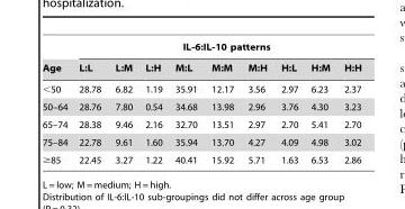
<table><thead><tr><td rowspan="2">Age</td><td colspan="9">IL-6:IL-10 patterns</td></tr><tr><td>L:L</td><td>L:M</td><td>L:H</td><td>M:L</td><td>M:M</td><td>M:H</td><td>H:L</td><td>H:M</td><td>H:H</td></tr></thead><tbody><tr><td>&lt;50</td><td>28.78</td><td>6.82</td><td>1.19</td><td>35.91</td><td>12.17</td><td>3.56</td><td>2.97</td><td>6.23</td><td>2.37</td></tr><tr><td>50–64</td><td>28.76</td><td>7.80</td><td>0.54</td><td>34.68</td><td>13.98</td><td>2.96</td><td>3.76</td><td>4.30</td><td>3.23</td></tr><tr><td>65–74</td><td>28.38</td><td>9.46</td><td>2.16</td><td>32.70</td><td>13.51</td><td>2.97</td><td>2.70</td><td>5.41</td><td>2.70</td></tr><tr><td>75–84</td><td>22.78</td><td>9.61</td><td>1.60</td><td>35.94</td><td>13.70</td><td>4.27</td><td>4.09</td><td>4.98</td><td>3.02</td></tr><tr><td>≥85</td><td>22.45</td><td>3.27</td><td>1.22</td><td>40.41</td><td>15.92</td><td>5.71</td><td>1.63</td><td>6.53</td><td>2.86</td></tr></tbody></table>